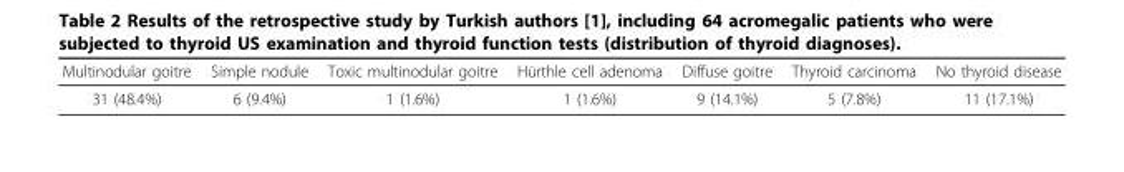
<table><thead><tr><td>Multinodular goitre</td><td>Simple nodule</td><td>Toxic multinodular goitre</td><td>Hürthle cell adenoma</td><td>Diffuse goitre</td><td>Thyroid carcinoma</td><td>No thyroid disease</td></tr></thead><tbody><tr><td>31 (48.4%)</td><td>6 (9.4%)</td><td>1 (1.6%)</td><td>1 (1.6%)</td><td>9 (14.1%)</td><td>5 (7.8%)</td><td>11 (17.1%)</td></tr></tbody></table>